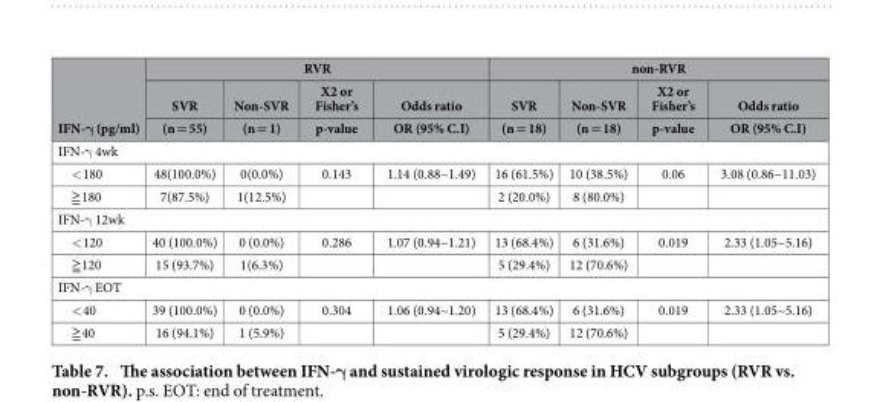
<table><thead><tr><td rowspan="3">IFN-γ (pg/ml)</td><td colspan="4">RVR</td><td colspan="4">non-RVR</td></tr><tr><td rowspan="2">SVR (n = 55)</td><td rowspan="2">Non-SVR (n = 1)</td><td rowspan="2">X2 or Fisher’s p-value</td><td rowspan="2">Odds ratio OR (95% C.I)</td><td rowspan="2">SVR (n = 18)</td><td rowspan="2">Non-SVR (n = 18)</td><td rowspan="2">X2 or Fisher’s p-value</td><td rowspan="2">Odds ratio OR (95% C.I)</td></tr><tr></tr></thead><tbody><tr><td colspan="9">IFN-γ 4wk</td></tr><tr><td>&lt; 180</td><td>48(100.0%)</td><td>0(0.0%)</td><td>0.143</td><td>1.14 (0.88~1.49)</td><td>16 (61.5%)</td><td>10 (38.5%)</td><td>0.06</td><td>3.08 (0.86~11.03)</td></tr><tr><td>≧ 180</td><td>7(87.5%)</td><td>1(12.5%)</td><td></td><td></td><td>2 (20.0%)</td><td>8 (80.0%)</td><td></td><td></td></tr><tr><td colspan="9">IFN-γ 12wk</td></tr><tr><td>&lt; 120</td><td>40 (100.0%)</td><td>0 (0.0%)</td><td>0.286</td><td>1.07 (0.94~1.21)</td><td>13 (68.4%)</td><td>6 (31.6%)</td><td>0.019</td><td>2.33 (1.05~5.16)</td></tr><tr><td>≧ 120</td><td>15 (93.7%)</td><td>1(6.3%)</td><td></td><td></td><td>5 (29.4%)</td><td>12 (70.6%)</td><td></td><td></td></tr><tr><td colspan="9">IFN-γ EOT</td></tr><tr><td>&lt; 40</td><td>39 (100.0%)</td><td>0 (0.0%)</td><td>0.304</td><td>1.06 (0.94~1.20)</td><td>13 (68.4%)</td><td>6 (31.6%)</td><td>0.019</td><td>2.33 (1.05~5.16)</td></tr><tr><td>≧ 40</td><td>16 (94.1%)</td><td>1 (5.9%)</td><td></td><td></td><td>5 (29.4%)</td><td>12 (70.6%)</td><td></td><td></td></tr></tbody></table>